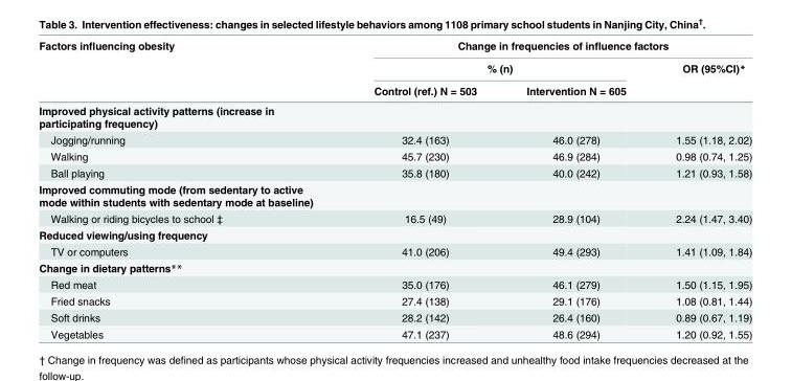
<table><thead><tr><td rowspan="3">Factors influencing obesity</td><td colspan="3">Change in frequencies of influence factors</td></tr><tr><td colspan="2">% (n)</td><td rowspan="2">OR (95%CI)*</td></tr><tr><td>Control (ref.) N = 503</td><td>Intervention N = 605</td></tr></thead><tbody><tr><td colspan="4">Improved physical activity patterns (increase in participating frequency)</td></tr><tr><td>Jogging/running</td><td>32.4 (163)</td><td>46.0 (278)</td><td>1.55 (1.18, 2.02)</td></tr><tr><td>Walking</td><td>45.7 (230)</td><td>46.9 (284)</td><td>0.98 (0.74, 1.25)</td></tr><tr><td>Ball playing</td><td>35.8 (180)</td><td>40.0 (242)</td><td>1.21 (0.93, 1.58)</td></tr><tr><td colspan="4">Improved commuting mode (from sedentary to active mode within students with sedentary mode at baseline)</td></tr><tr><td>Walking or riding bicycles to school ‡</td><td>16.5 (49)</td><td>28.9 (104)</td><td>2.24 (1.47, 3.40)</td></tr><tr><td colspan="4">Reduced viewing/using frequency</td></tr><tr><td>TV or computers</td><td>41.0 (206)</td><td>49.4 (293)</td><td>1.41 (1.09, 1.84)</td></tr><tr><td colspan="4">Change in dietary patterns**</td></tr><tr><td>Red meat</td><td>35.0 (176)</td><td>46.1 (279)</td><td>1.50 (1.15, 1.95)</td></tr><tr><td>Fried snacks</td><td>27.4 (138)</td><td>29.1 (176)</td><td>1.08 (0.81, 1.44)</td></tr><tr><td>Soft drinks</td><td>28.2 (142)</td><td>26.4 (160)</td><td>0.89 (0.67, 1.19)</td></tr><tr><td>Vegetables</td><td>47.1 (237)</td><td>48.6 (294)</td><td>1.20 (0.92, 1.55)</td></tr></tbody></table>